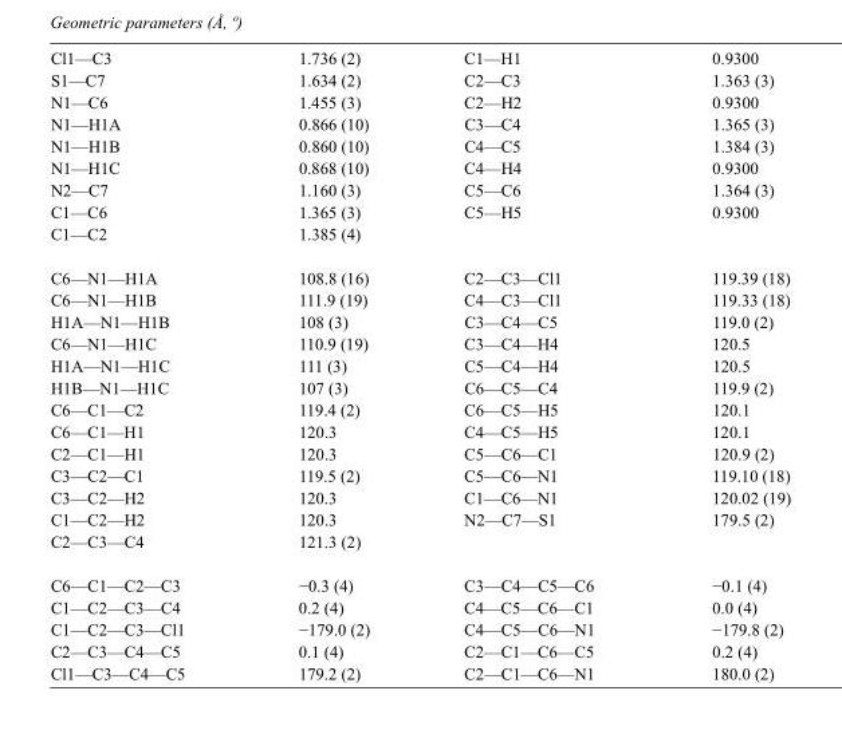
<table><tbody><tr><td>Cl1—C3</td><td>1.736 (2)</td><td>C1—H1</td><td>0.9300</td></tr><tr><td>S1—C7</td><td>1.634 (2)</td><td>C2—C3</td><td>1.363 (3)</td></tr><tr><td>N1—C6</td><td>1.455 (3)</td><td>C2—H2</td><td>0.9300</td></tr><tr><td>N1—H1A</td><td>0.866 (10)</td><td>C3—C4</td><td>1.365 (3)</td></tr><tr><td>N1—H1B</td><td>0.860 (10)</td><td>C4—C5</td><td>1.384 (3)</td></tr><tr><td>N1—H1C</td><td>0.868 (10)</td><td>C4—H4</td><td>0.9300</td></tr><tr><td>N2—C7</td><td>1.160 (3)</td><td>C5—C6</td><td>1.364 (3)</td></tr><tr><td>C1—C6</td><td>1.365 (3)</td><td>C5—H5</td><td>0.9300</td></tr><tr><td>C1—C2</td><td>1.385 (4)</td><td></td><td></td></tr><tr><td>C6—N1—H1A</td><td>108.8 (16)</td><td>C2—C3—Cl1</td><td>119.39 (18)</td></tr><tr><td>C6—N1—H1B</td><td>111.9 (19)</td><td>C4—C3—Cl1</td><td>119.33 (18)</td></tr><tr><td>H1A—N1—H1B</td><td>108 (3)</td><td>C3—C4—C5</td><td>119.0 (2)</td></tr><tr><td>C6—N1—H1C</td><td>110.9 (19)</td><td>C3—C4—H4</td><td>120.5</td></tr><tr><td>H1A—N1—H1C</td><td>111 (3)</td><td>C5—C4—H4</td><td>120.5</td></tr><tr><td>H1B—N1—H1C</td><td>107 (3)</td><td>C6—C5—C4</td><td>119.9 (2)</td></tr><tr><td>C6—C1—C2</td><td>119.4 (2)</td><td>C6—C5—H5</td><td>120.1</td></tr><tr><td>C6—C1—H1</td><td>120.3</td><td>C4—C5—H5</td><td>120.1</td></tr><tr><td>C2—C1—H1</td><td>120.3</td><td>C5—C6—C1</td><td>120.9 (2)</td></tr><tr><td>C3—C2—C1</td><td>119.5 (2)</td><td>C5—C6—N1</td><td>119.10 (18)</td></tr><tr><td>C3—C2—H2</td><td>120.3</td><td>C1—C6—N1</td><td>120.02 (19)</td></tr><tr><td>C1—C2—H2</td><td>120.3</td><td>N2—C7—S1</td><td>179.5 (2)</td></tr><tr><td>C2—C3—C4</td><td>121.3 (2)</td><td></td><td></td></tr><tr><td>C6—C1—C2—C3</td><td>−0.3 (4)</td><td>C3—C4—C5—C6</td><td>−0.1 (4)</td></tr><tr><td>C1—C2—C3—C4</td><td>0.2 (4)</td><td>C4—C5—C6—C1</td><td>0.0 (4)</td></tr><tr><td>C1—C2—C3—Cl1</td><td>−179.0 (2)</td><td>C4—C5—C6—N1</td><td>−179.8 (2)</td></tr><tr><td>C2—C3—C4—C5</td><td>0.1 (4)</td><td>C2—C1—C6—C5</td><td>0.2 (4)</td></tr><tr><td>Cl1—C3—C4—C5</td><td>179.2 (2)</td><td>C2—C1—C6—N1</td><td>180.0 (2)</td></tr></tbody></table>